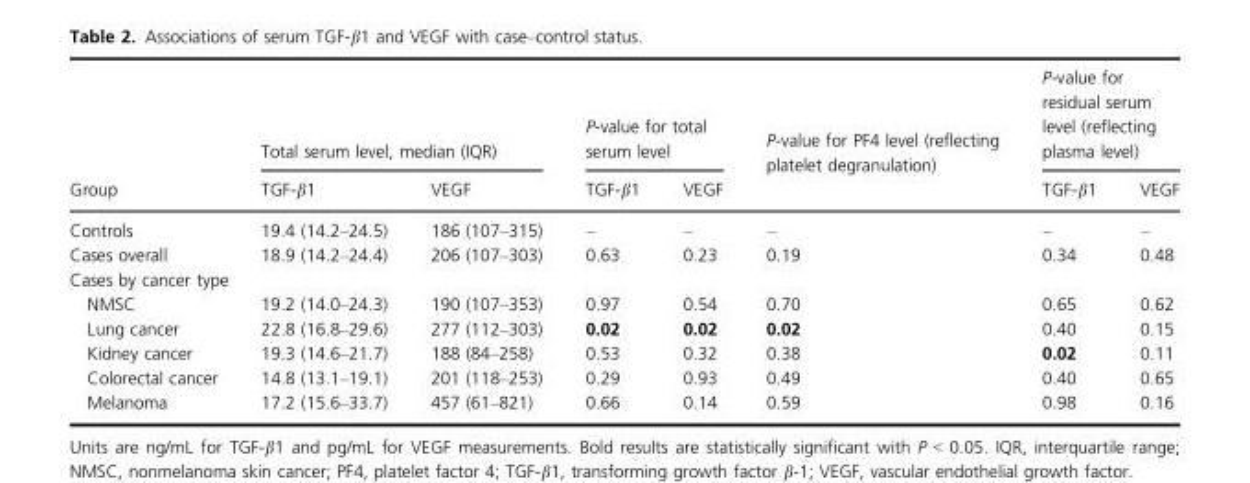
<table><thead><tr><td rowspan="2">Group</td><td colspan="2">Total serum level, median (IQR)</td><td colspan="2">P-value for total serum level</td><td rowspan="2">P-value for PF4 level (reflecting platelet degranulation)</td><td colspan="2">P-value for residual serum level (reflecting plasma level)</td></tr><tr><td>TGF-β1</td><td>VEGF</td><td>TGF-β1</td><td>VEGF</td><td>TGF-β1</td><td>VEGF</td></tr></thead><tbody><tr><td>Controls</td><td>19.4 (14.2–24.5)</td><td>186 (107–315)</td><td>–</td><td>–</td><td>–</td><td>–</td><td>–</td></tr><tr><td>Cases overall</td><td>18.9 (14.2–24.4)</td><td>206 (107–303)</td><td>0.63</td><td>0.23</td><td>0.19</td><td>0.34</td><td>0.48</td></tr><tr><td colspan="8">Cases by cancer type</td></tr><tr><td>NMSC</td><td>19.2 (14.0–24.3)</td><td>190 (107–353)</td><td>0.97</td><td>0.54</td><td>0.70</td><td>0.65</td><td>0.62</td></tr><tr><td>Lung cancer</td><td>22.8 (16.8–29.6)</td><td>277 (112–303)</td><td>0.02</td><td>0.02</td><td>0.02</td><td>0.40</td><td>0.15</td></tr><tr><td>Kidney cancer</td><td>19.3 (14.6–21.7)</td><td>188 (84–258)</td><td>0.53</td><td>0.32</td><td>0.38</td><td>0.02</td><td>0.11</td></tr><tr><td>Colorectal cancer</td><td>14.8 (13.1–19.1)</td><td>201 (118–253)</td><td>0.29</td><td>0.93</td><td>0.49</td><td>0.40</td><td>0.65</td></tr><tr><td>Melanoma</td><td>17.2 (15.6–33.7)</td><td>457 (61–821)</td><td>0.66</td><td>0.14</td><td>0.59</td><td>0.98</td><td>0.16</td></tr></tbody></table>